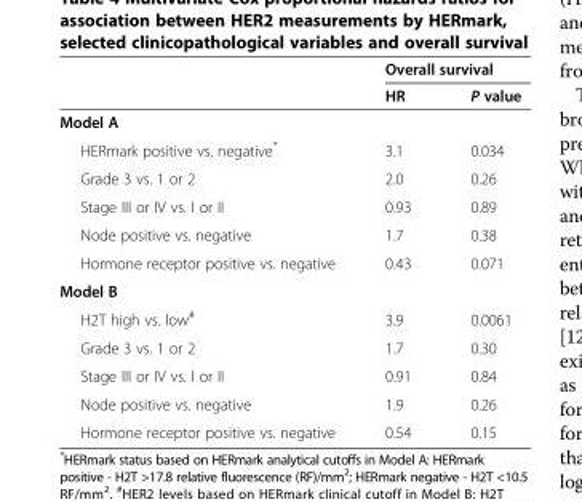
<table><thead><tr><td rowspan="2"></td><td colspan="2">Overall survival</td></tr><tr><td>HR</td><td>P value</td></tr></thead><tbody><tr><td colspan="3">Model A</td></tr><tr><td>HERmark positive vs. negative*</td><td>3.1</td><td>0.034</td></tr><tr><td>Grade 3 vs. 1 or 2</td><td>2.0</td><td>0.26</td></tr><tr><td>Stage III or IV vs. I or II</td><td>0.93</td><td>0.89</td></tr><tr><td>Node positive vs. negative</td><td>1.7</td><td>0.38</td></tr><tr><td>Hormone receptor positive vs. negative</td><td>0.43</td><td>0.071</td></tr><tr><td colspan="3">Model B</td></tr><tr><td>H2T high vs. low<sup>#</sup></td><td>3.9</td><td>0.0061</td></tr><tr><td>Grade 3 vs. 1 or 2</td><td>1.7</td><td>0.30</td></tr><tr><td>Stage III or IV vs. I or II</td><td>0.91</td><td>0.84</td></tr><tr><td>Node positive vs. negative</td><td>1.9</td><td>0.26</td></tr><tr><td>Hormone receptor positive vs. negative</td><td>0.54</td><td>0.15</td></tr></tbody></table>